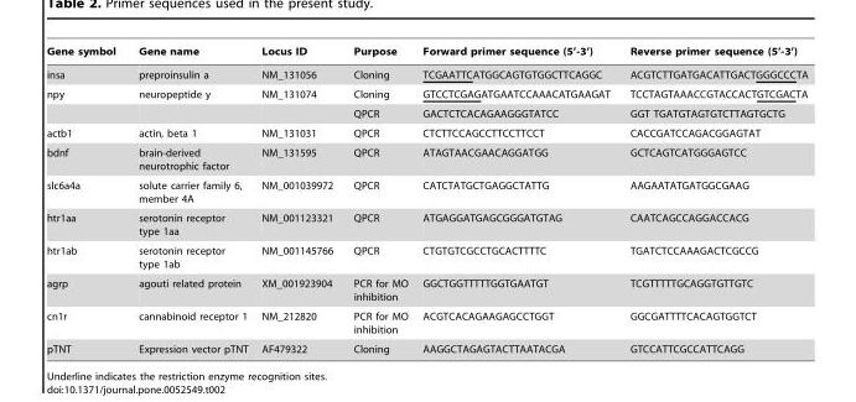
<table><thead><tr><td>Gene symbol</td><td>Gene name</td><td>Locus ID</td><td>Purpose</td><td>Forward primer sequence (5’-3’)</td><td>Reverse primer sequence (5’-3’)</td></tr></thead><tbody><tr><td>insa</td><td>preproinsulin a</td><td>NM_131056</td><td>Cloning</td><td>TCGAATTCATGGCAGTGTGGCTTCAGGC</td><td>ACGTCTTGATGACATTGACTGGGCCCTA</td></tr><tr><td rowspan="2">npy</td><td>neuropeptide y</td><td>NM_131074</td><td>Cloning</td><td>GTCCTCGAGATGAATCCAAACATGAAGAT</td><td>TCCTAGTAAACCGTACCACTGTCGACTA</td></tr><tr><td></td><td></td><td>QPCR</td><td>GACTCTCACAGAAGGGTATCC</td><td>GGT TGATGTAGTGTCTTAGTGCTG</td></tr><tr><td>actb1</td><td>actin, beta 1</td><td>NM_131031</td><td>QPCR</td><td>CTCTTCCAGCCTTCCTTCCT</td><td>CACCGATCCAGACGGAGTAT</td></tr><tr><td>bdnf</td><td>brain-derived neurotrophic factor</td><td>NM_131595</td><td>QPCR</td><td>ATAGTAACGAACAGGATGG</td><td>GCTCAGTCATGGGAGTCC</td></tr><tr><td>slc6a4a</td><td>solute carrier family 6, member 4A</td><td>NM_001039972</td><td>QPCR</td><td>CATCTATGCTGAGGCTATTG</td><td>AAGAATATGATGGCGAAG</td></tr><tr><td>htr1aa</td><td>serotonin receptor type 1aa</td><td>NM_001123321</td><td>QPCR</td><td>ATGAGGATGAGCGGGATGTAG</td><td>CAATCAGCCAGGACCACG</td></tr><tr><td>htr1ab</td><td>serotonin receptor type 1ab</td><td>NM_001145766</td><td>QPCR</td><td>CTGTGTCGCCTGCACTTTTC</td><td>TGATCTCCAAAGACTCGCCG</td></tr><tr><td>agrp</td><td>agouti related protein</td><td>XM_001923904</td><td>PCR for MO inhibition</td><td>GGCTGGTTTTTGGTGAATGT</td><td>TCGTTTTTGCAGGTGTTGTC</td></tr><tr><td>cn1r</td><td>cannabinoid receptor 1</td><td>NM_212820</td><td>PCR for MO inhibition</td><td>ACGTCACAGAAGAGCCTGGT</td><td>GGCGATTTTCACAGTGGTCT</td></tr><tr><td>pTNT</td><td>Expression vector pTNT</td><td>AF479322</td><td>Cloning</td><td>AAGGCTAGAGTACTTAATACGA</td><td>GTCCATTCGCCATTCAGG</td></tr></tbody></table>